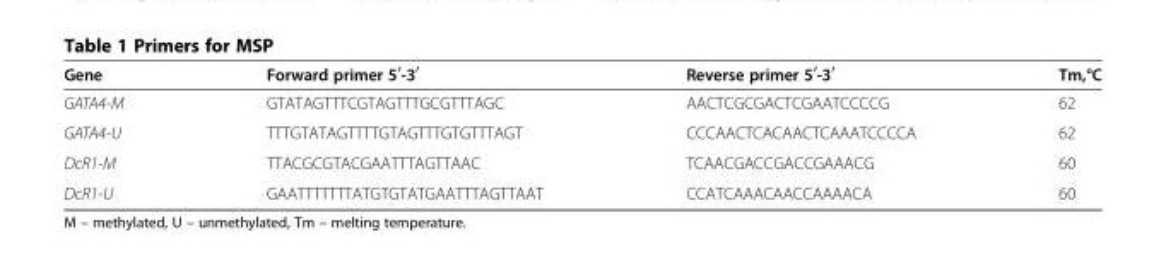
<table><thead><tr><td>Gene</td><td>Forward primer 5<sup>′</sup>-3<sup>′</sup></td><td>Reverse primer 5<sup>′</sup>-3<sup>′</sup></td><td>Tm,°C</td></tr></thead><tbody><tr><td>GATA4-M</td><td>GTATAGTTTCGTAGTTTGCGTTTAGC</td><td>AACTCGCGACTCGAATCCCCG</td><td>62</td></tr><tr><td>GATA4-U</td><td>TTTGTATAGTTTTGTAGTTTGTGTTTAGT</td><td>CCCAACTCACAACTCAAATCCCCA</td><td>62</td></tr><tr><td>DcR1-M</td><td>TTACGCGTACGAATTTAGTTAAC</td><td>TCAACGACCGACCGAAACG</td><td>60</td></tr><tr><td>DcR1-U</td><td>GAATTTTTTTATGTGTATGAATTTAGTTAAT</td><td>CCATCAAACAACCAAAACA</td><td>60</td></tr></tbody></table>